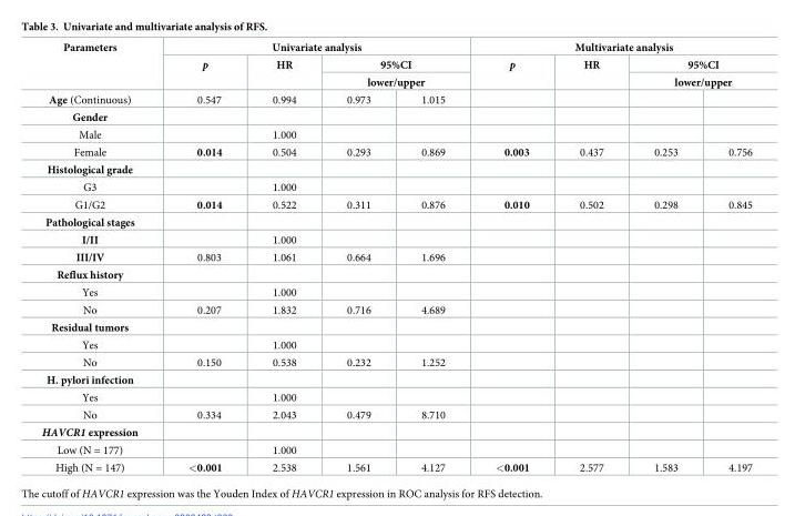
<table><thead><tr><td rowspan="4">Parameters Age (Continuous)</td><td colspan="4">Univariate analysis</td><td colspan="4">Multivariate analysis</td></tr><tr><td rowspan="3">p 0.547</td><td rowspan="3">HR 0.994</td><td rowspan="2" colspan="2">95%CI lower/upper</td><td rowspan="3">p</td><td rowspan="3">HR</td><td rowspan="2" colspan="2">95%CI lower/upper</td></tr><tr></tr><tr><td>0.973</td><td>1.015</td><td></td><td></td></tr></thead><tbody><tr><td colspan="9">Gender</td></tr><tr><td>Male</td><td></td><td>1.000</td><td></td><td></td><td></td><td></td><td></td><td></td></tr><tr><td>Female</td><td>0.014</td><td>0.504</td><td>0.293</td><td>0.869</td><td>0.003</td><td>0.437</td><td>0.253</td><td>0.756</td></tr><tr><td colspan="9">Histological grade</td></tr><tr><td>G3</td><td></td><td>1.000</td><td></td><td></td><td></td><td></td><td></td><td></td></tr><tr><td>G1/G2</td><td>0.014</td><td>0.522</td><td>0.311</td><td>0.876</td><td>0.010</td><td>0.502</td><td>0.298</td><td>0.845</td></tr><tr><td colspan="9">Pathological stages</td></tr><tr><td>I/II</td><td></td><td>1.000</td><td></td><td></td><td></td><td></td><td></td><td></td></tr><tr><td>III/IV</td><td>0.803</td><td>1.061</td><td>0.664</td><td>1.696</td><td></td><td></td><td></td><td></td></tr><tr><td colspan="9">Reflux history</td></tr><tr><td>Yes</td><td></td><td>1.000</td><td></td><td></td><td></td><td></td><td></td><td></td></tr><tr><td>No</td><td>0.207</td><td>1.832</td><td>0.716</td><td>4.689</td><td></td><td></td><td></td><td></td></tr><tr><td colspan="9">Residual tumors</td></tr><tr><td>Yes</td><td></td><td>1.000</td><td></td><td></td><td></td><td></td><td></td><td></td></tr><tr><td>No</td><td>0.150</td><td>0.538</td><td>0.232</td><td>1.252</td><td></td><td></td><td></td><td></td></tr><tr><td colspan="9">H. pylori infection</td></tr><tr><td>Yes</td><td></td><td>1.000</td><td></td><td></td><td></td><td></td><td></td><td></td></tr><tr><td>No</td><td>0.334</td><td>2.043</td><td>0.479</td><td>8.710</td><td></td><td></td><td></td><td></td></tr><tr><td colspan="9">HAVCR1 expression</td></tr><tr><td>Low (N = 177)</td><td></td><td>1.000</td><td></td><td></td><td></td><td></td><td></td><td></td></tr><tr><td>High (N = 147)</td><td>&lt;0.001</td><td>2.538</td><td>1.561</td><td>4.127</td><td>&lt;0.001</td><td>2.577</td><td>1.583</td><td>4.197</td></tr></tbody></table>